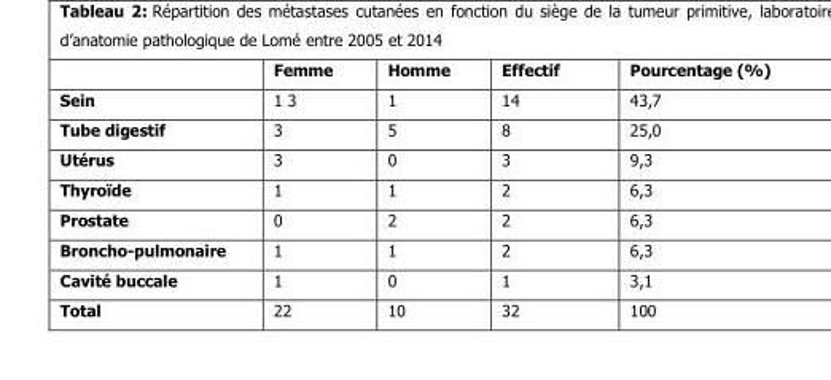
<table><thead><tr><td></td><td>Femme</td><td>Homme</td><td>Effectif</td><td>Pourcentage (%)</td></tr></thead><tbody><tr><td>Sein</td><td>1 3</td><td>1</td><td>14</td><td>43,7</td></tr><tr><td>Tube digestif</td><td>3</td><td>5</td><td>8</td><td>25,0</td></tr><tr><td>Utérus</td><td>3</td><td>0</td><td>3</td><td>9,3</td></tr><tr><td>Thyroïde</td><td>1</td><td>1</td><td>2</td><td>6,3</td></tr><tr><td>Prostate</td><td>0</td><td>2</td><td>2</td><td>6,3</td></tr><tr><td>Broncho-pulmonaire</td><td>1</td><td>1</td><td>2</td><td>6,3</td></tr><tr><td>Cavité buccale</td><td>1</td><td>0</td><td>1</td><td>3,1</td></tr><tr><td>Total</td><td>22</td><td>10</td><td>32</td><td>100</td></tr></tbody></table>